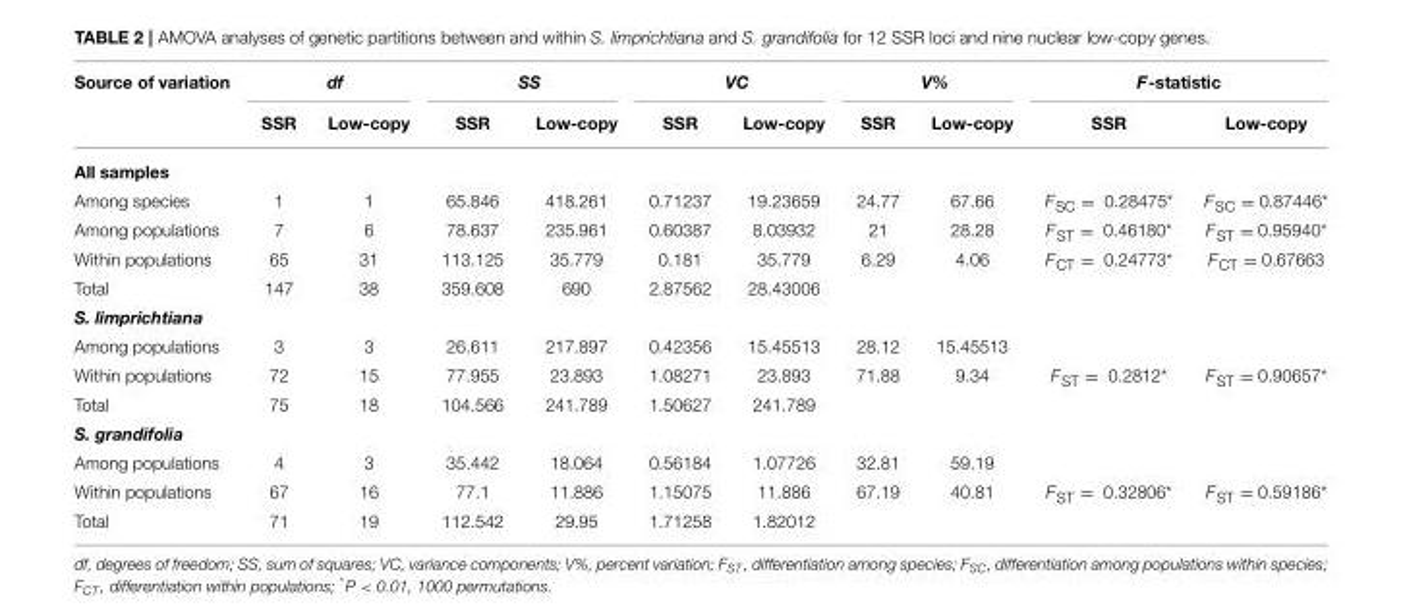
<table><thead><tr><td rowspan="2">Source of variation</td><td colspan="2">df</td><td colspan="2">SS</td><td colspan="2">VC</td><td colspan="2">V%</td><td colspan="2">F-statistic</td></tr><tr><td>SSR</td><td>Low-copy</td><td>SSR</td><td>Low-copy</td><td>SSR</td><td>Low-copy</td><td>SSR</td><td>Low-copy</td><td>SSR</td><td>Low-copy</td></tr></thead><tbody><tr><td colspan="11">All samples</td></tr><tr><td>Among species</td><td>1</td><td>1</td><td>65.846</td><td>418.261</td><td>0.71237</td><td>19.23659</td><td>24.77</td><td>67.66</td><td>F<sub>SC</sub> = 0.28475*</td><td>F<sub>SC</sub> = 0.87446*</td></tr><tr><td>Among populations</td><td>7</td><td>6</td><td>78.637</td><td>235.961</td><td>0.60387</td><td>8.03932</td><td>21</td><td>28.28</td><td>F<sub>ST</sub> = 0.46180*</td><td>F<sub>ST</sub> = 0.95940*</td></tr><tr><td>Within populations</td><td>65</td><td>31</td><td>113.125</td><td>35.779</td><td>0.181</td><td>35.779</td><td>6.29</td><td>4.06</td><td>F<sub>CT</sub> = 0.24773*</td><td>F<sub>CT</sub> = 0.67663</td></tr><tr><td>Total</td><td>147</td><td>38</td><td>359.608</td><td>690</td><td>2.87562</td><td>28.43006</td><td></td><td></td><td></td><td></td></tr><tr><td colspan="11">S. limprichtiana</td></tr><tr><td>Among populations</td><td>3</td><td>3</td><td>26.611</td><td>217.897</td><td>0.42356</td><td>15.45513</td><td>28.12</td><td>15.45513</td><td></td><td></td></tr><tr><td>Within populations</td><td>72</td><td>15</td><td>77.955</td><td>23.893</td><td>1.08271</td><td>23.893</td><td>71.88</td><td>9.34</td><td>F<sub>ST</sub> = 0.2812*</td><td>F<sub>ST</sub> = 0.90657*</td></tr><tr><td>Total</td><td>75</td><td>18</td><td>104.566</td><td>241.789</td><td>1.50627</td><td>241.789</td><td></td><td></td><td></td><td></td></tr><tr><td colspan="11">S. grandifolia</td></tr><tr><td>Among populations</td><td>4</td><td>3</td><td>35.442</td><td>18.064</td><td>0.56184</td><td>1.07726</td><td>32.81</td><td>59.19</td><td></td><td></td></tr><tr><td>Within populations</td><td>67</td><td>16</td><td>77.1</td><td>11.886</td><td>1.15075</td><td>11.886</td><td>67.19</td><td>40.81</td><td>F<sub>ST</sub> = 0.32806*</td><td>F<sub>ST</sub> = 0.59186*</td></tr><tr><td>Total</td><td>71</td><td>19</td><td>112.542</td><td>29.95</td><td>1.71258</td><td>1.82012</td><td></td><td></td><td></td><td></td></tr></tbody></table>